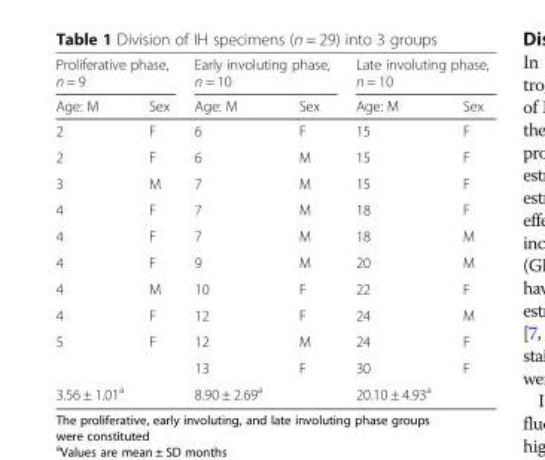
<table><thead><tr><td colspan="2">Proliferative phase, n = 9</td><td colspan="2">Early involuting phase, n = 10</td><td colspan="2">Late involuting phase, n = 10</td></tr><tr><td>Age: M</td><td>Sex</td><td>Age: M</td><td>Sex</td><td>Age: M</td><td>Sex</td></tr></thead><tbody><tr><td>2</td><td>F</td><td>6</td><td>F</td><td>15</td><td>F</td></tr><tr><td>2</td><td>F</td><td>6</td><td>M</td><td>15</td><td>F</td></tr><tr><td>3</td><td>M</td><td>7</td><td>M</td><td>15</td><td>F</td></tr><tr><td>4</td><td>F</td><td>7</td><td>M</td><td>18</td><td>F</td></tr><tr><td>4</td><td>F</td><td>7</td><td>M</td><td>18</td><td>M</td></tr><tr><td>4</td><td>F</td><td>9</td><td>M</td><td>20</td><td>M</td></tr><tr><td>4</td><td>M</td><td>10</td><td>F</td><td>22</td><td>F</td></tr><tr><td>4</td><td>F</td><td>12</td><td>F</td><td>24</td><td>M</td></tr><tr><td rowspan="2">5</td><td>F</td><td>12</td><td>M</td><td>24</td><td>F</td></tr><tr><td></td><td>13</td><td>F</td><td>30</td><td>F</td></tr><tr><td>3.56 ± 1.01<sup>a</sup></td><td></td><td>8.90 ± 2.69<sup>a</sup></td><td></td><td>20.10 ± 4.93<sup>a</sup></td><td></td></tr></tbody></table>